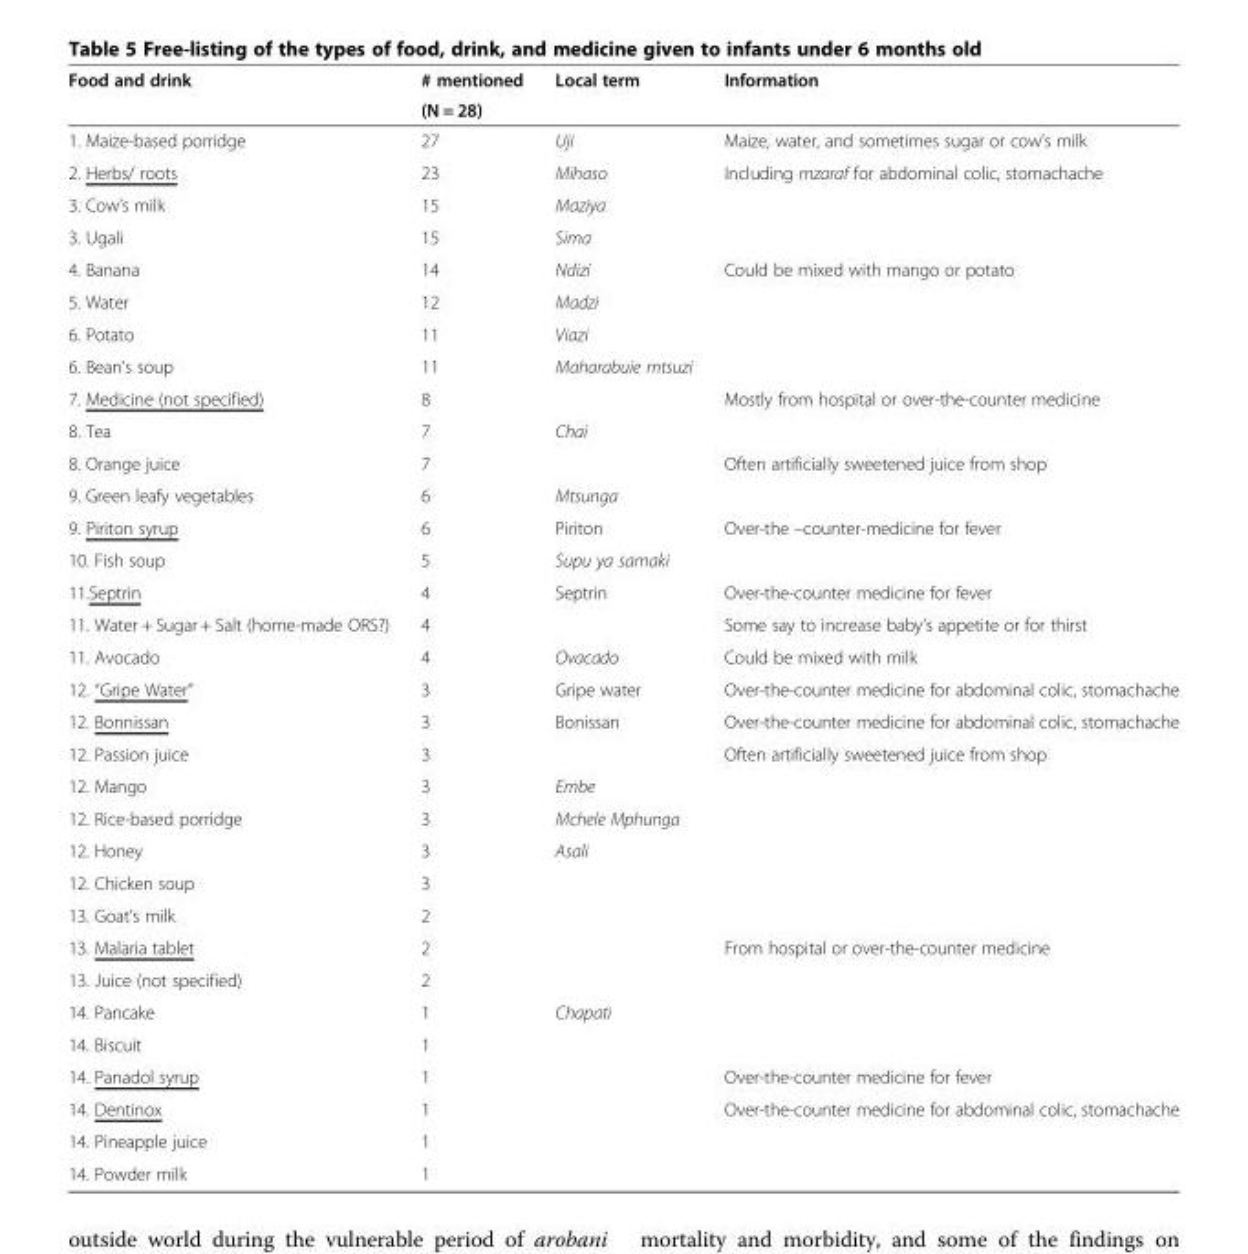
<table><thead><tr><td rowspan="2">Food and drink</td><td rowspan="2"># mentioned (N = 28)</td><td rowspan="2">Local term</td><td rowspan="2">Information</td></tr><tr></tr></thead><tbody><tr><td>1. Maize-based porridge</td><td>27</td><td>Uji</td><td>Maize, water, and sometimes sugar or cow’s milk</td></tr><tr><td>2. Herbs/ roots</td><td>23</td><td>Mihaso</td><td>Including mzaraf for abdominal colic, stomachache</td></tr><tr><td>3. Cow’s milk</td><td>15</td><td>Maziya</td><td></td></tr><tr><td>3. Ugali</td><td>15</td><td>Sima</td><td></td></tr><tr><td>4. Banana</td><td>14</td><td>Ndizi</td><td>Could be mixed with mango or potato</td></tr><tr><td>5. Water</td><td>12</td><td>Madzi</td><td></td></tr><tr><td>6. Potato</td><td>11</td><td>Viazi</td><td></td></tr><tr><td>6. Bean’s soup</td><td>11</td><td>Maharabuie mtsuzi</td><td></td></tr><tr><td>7. Medicine (not specified)</td><td>8</td><td></td><td>Mostly from hospital or over-the-counter medicine</td></tr><tr><td>8. Tea</td><td>7</td><td>Chai</td><td></td></tr><tr><td>8. Orange juice</td><td>7</td><td></td><td>Often artificially sweetened juice from shop</td></tr><tr><td>9. Green leafy vegetables</td><td>6</td><td>Mtsunga</td><td></td></tr><tr><td>9. Piriton syrup</td><td>6</td><td>Piriton</td><td>Over-the –counter-medicine for fever</td></tr><tr><td>10. Fish soup</td><td>5</td><td>Supu ya samaki</td><td></td></tr><tr><td>11.Septrin</td><td>4</td><td>Septrin</td><td>Over-the-counter medicine for fever</td></tr><tr><td>11. Water + Sugar + Salt (home-made ORS?)</td><td>4</td><td></td><td>Some say to increase baby’s appetite or for thirst</td></tr><tr><td>11. Avocado</td><td>4</td><td>Ovacado</td><td>Could be mixed with milk</td></tr><tr><td>12. “Gripe Water”</td><td>3</td><td>Gripe water</td><td>Over-the-counter medicine for abdominal colic, stomachache</td></tr><tr><td>12. Bonnissan</td><td>3</td><td>Bonissan</td><td>Over-the-counter medicine for abdominal colic, stomachache</td></tr><tr><td>12. Passion juice</td><td>3</td><td></td><td>Often artificially sweetened juice from shop</td></tr><tr><td>12. Mango</td><td>3</td><td>Embe</td><td></td></tr><tr><td>12. Rice-based porridge</td><td>3</td><td>Mchele Mphunga</td><td></td></tr><tr><td>12. Honey</td><td>3</td><td>Asali</td><td></td></tr><tr><td>12. Chicken soup</td><td>3</td><td></td><td></td></tr><tr><td>13. Goat’s milk</td><td>2</td><td></td><td></td></tr><tr><td>13. Malaria tablet</td><td>2</td><td></td><td>From hospital or over-the-counter medicine</td></tr><tr><td>13. Juice (not specified)</td><td>2</td><td></td><td></td></tr><tr><td>14. Pancake</td><td>1</td><td>Chapati</td><td></td></tr><tr><td>14. Biscuit</td><td>1</td><td></td><td></td></tr><tr><td>14. Panadol syrup</td><td>1</td><td></td><td>Over-the-counter medicine for fever</td></tr><tr><td>14. Dentinox</td><td>1</td><td></td><td>Over-the-counter medicine for abdominal colic, stomachache</td></tr><tr><td>14. Pineapple juice</td><td>1</td><td></td><td></td></tr><tr><td>14. Powder milk</td><td>1</td><td></td><td></td></tr></tbody></table>